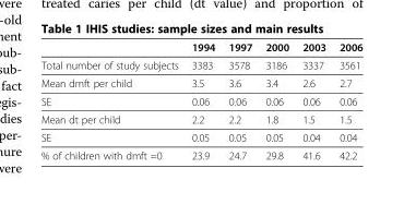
<table><thead><tr><td></td><td>1994</td><td>1997</td><td>2000</td><td>2003</td><td>2006</td></tr></thead><tbody><tr><td>Total number of study subjects</td><td>3383</td><td>3578</td><td>3186</td><td>3337</td><td>3561</td></tr><tr><td>Mean dmft per child</td><td>3.5</td><td>3.6</td><td>3.4</td><td>2.6</td><td>2.7</td></tr><tr><td>SE</td><td>0.06</td><td>0.06</td><td>0.06</td><td>0.06</td><td>0.06</td></tr><tr><td>Mean dt per child</td><td>2.2</td><td>2.2</td><td>1.8</td><td>1.5</td><td>1.5</td></tr><tr><td>SE</td><td>0.05</td><td>0.05</td><td>0.05</td><td>0.04</td><td>0.04</td></tr><tr><td>% of children with dmft =0</td><td>23.9</td><td>24.7</td><td>29.8</td><td>41.6</td><td>42.2</td></tr></tbody></table>